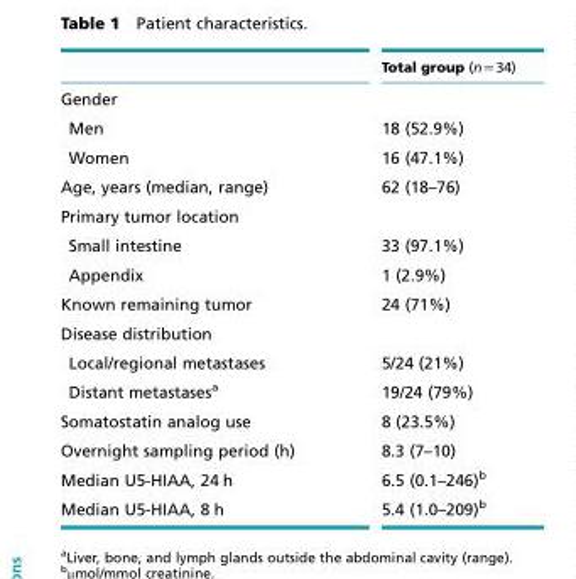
<table><thead><tr><td></td><td>Total group (n=34)</td></tr></thead><tbody><tr><td colspan="2">Gender</td></tr><tr><td>Men</td><td>18 (52.9%)</td></tr><tr><td>Women</td><td>16 (47.1%)</td></tr><tr><td>Age, years (median, range)</td><td>62 (18–76)</td></tr><tr><td colspan="2">Primary tumor location</td></tr><tr><td>Small intestine</td><td>33 (97.1%)</td></tr><tr><td>Appendix</td><td>1 (2.9%)</td></tr><tr><td>Known remaining tumor</td><td>24 (71%)</td></tr><tr><td colspan="2">Disease distribution</td></tr><tr><td>Local/regional metastases</td><td>5/24 (21%)</td></tr><tr><td>Distant metastases<sup>a</sup></td><td>19/24 (79%)</td></tr><tr><td>Somatostatin analog use</td><td>8 (23.5%)</td></tr><tr><td>Overnight sampling period (h)</td><td>8.3 (7–10)</td></tr><tr><td>Median U5-HIAA, 24 h</td><td>6.5 (0.1–246)<sup>b</sup></td></tr><tr><td>Median U5-HIAA, 8 h</td><td>5.4 (1.0–209)<sup>b</sup></td></tr></tbody></table>